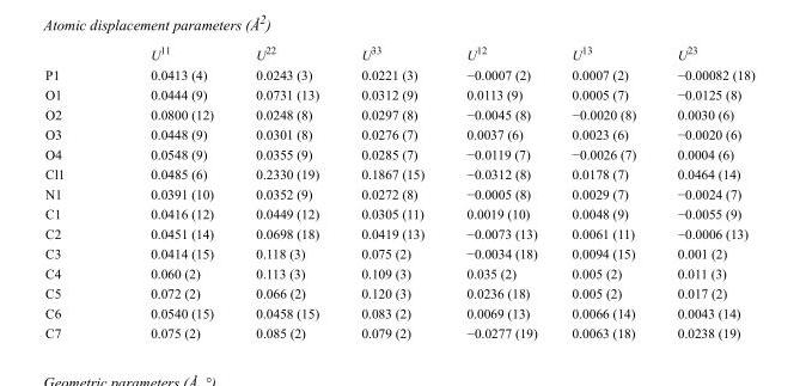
<table><thead><tr><td></td><td>U<sup>11</sup></td><td>U<sup>22</sup></td><td>U<sup>33</sup></td><td>U<sup>12</sup></td><td>U<sup>13</sup></td><td>U<sup>23</sup></td></tr></thead><tbody><tr><td>P1</td><td>0.0413 (4)</td><td>0.0243 (3)</td><td>0.0221 (3)</td><td>−0.0007 (2)</td><td>0.0007 (2)</td><td>−0.00082 (18)</td></tr><tr><td>O1</td><td>0.0444 (9)</td><td>0.0731 (13)</td><td>0.0312 (9)</td><td>0.0113 (9)</td><td>0.0005 (7)</td><td>−0.0125 (8)</td></tr><tr><td>O2</td><td>0.0800 (12)</td><td>0.0248 (8)</td><td>0.0297 (8)</td><td>−0.0045 (8)</td><td>−0.0020 (8)</td><td>0.0030 (6)</td></tr><tr><td>O3</td><td>0.0448 (9)</td><td>0.0301 (8)</td><td>0.0276 (7)</td><td>0.0037 (6)</td><td>0.0023 (6)</td><td>−0.0020 (6)</td></tr><tr><td>O4</td><td>0.0548 (9)</td><td>0.0355 (9)</td><td>0.0285 (7)</td><td>−0.0119 (7)</td><td>−0.0026 (7)</td><td>0.0004 (6)</td></tr><tr><td>Cl1</td><td>0.0485 (6)</td><td>0.2330 (19)</td><td>0.1867 (15)</td><td>−0.0312 (8)</td><td>0.0178 (7)</td><td>0.0464 (14)</td></tr><tr><td>N1</td><td>0.0391 (10)</td><td>0.0352 (9)</td><td>0.0272 (8)</td><td>−0.0005 (8)</td><td>0.0029 (7)</td><td>−0.0024 (7)</td></tr><tr><td>C1</td><td>0.0416 (12)</td><td>0.0449 (12)</td><td>0.0305 (11)</td><td>0.0019 (10)</td><td>0.0048 (9)</td><td>−0.0055 (9)</td></tr><tr><td>C2</td><td>0.0451 (14)</td><td>0.0698 (18)</td><td>0.0419 (13)</td><td>−0.0073 (13)</td><td>0.0061 (11)</td><td>−0.0006 (13)</td></tr><tr><td>C3</td><td>0.0414 (15)</td><td>0.118 (3)</td><td>0.075 (2)</td><td>−0.0034 (18)</td><td>0.0094 (15)</td><td>0.001 (2)</td></tr><tr><td>C4</td><td>0.060 (2)</td><td>0.113 (3)</td><td>0.109 (3)</td><td>0.035 (2)</td><td>0.005 (2)</td><td>0.011 (3)</td></tr><tr><td>C5</td><td>0.072 (2)</td><td>0.066 (2)</td><td>0.120 (3)</td><td>0.0236 (18)</td><td>0.005 (2)</td><td>0.017 (2)</td></tr><tr><td>C6</td><td>0.0540 (15)</td><td>0.0458 (15)</td><td>0.083 (2)</td><td>0.0069 (13)</td><td>0.0066 (14)</td><td>0.0043 (14)</td></tr><tr><td>C7</td><td>0.075 (2)</td><td>0.085 (2)</td><td>0.079 (2)</td><td>−0.0277 (19)</td><td>0.0063 (18)</td><td>0.0238 (19)</td></tr></tbody></table>